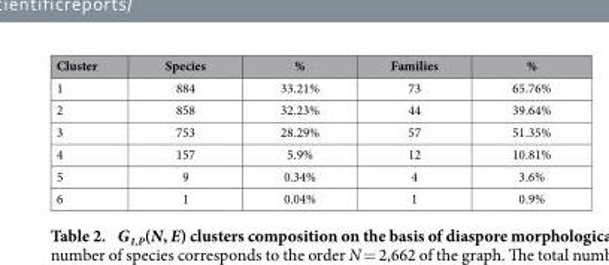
<table><thead><tr><td>Cluster</td><td>Species</td><td>%</td><td>Families</td><td>%</td></tr></thead><tbody><tr><td>1</td><td>884</td><td>33.21%</td><td>73</td><td>65.76%</td></tr><tr><td>2</td><td>858</td><td>32.23%</td><td>44</td><td>39.64%</td></tr><tr><td>3</td><td>753</td><td>28.29%</td><td>57</td><td>51.35%</td></tr><tr><td>4</td><td>157</td><td>5.9%</td><td>12</td><td>10.81%</td></tr><tr><td>5</td><td>9</td><td>0.34%</td><td>4</td><td>3.6%</td></tr><tr><td>6</td><td>1</td><td>0.04%</td><td>1</td><td>0.9%</td></tr></tbody></table>